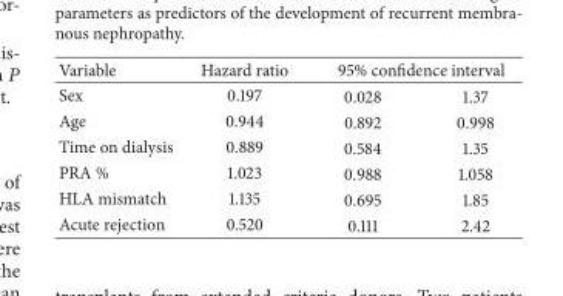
<table><thead><tr><td rowspan="2">Variable Sex</td><td rowspan="2">Hazard ratio 0.197</td><td colspan="2">95% confidence interval</td></tr><tr><td>0.028</td><td>1.37</td></tr></thead><tbody><tr><td>Age</td><td>0.944</td><td>0.892</td><td>0.998</td></tr><tr><td>Time on dialysis</td><td>0.889</td><td>0.584</td><td>1.35</td></tr><tr><td>PRA %</td><td>1.023</td><td>0.988</td><td>1.058</td></tr><tr><td>HLA mismatch</td><td>1.135</td><td>0.695</td><td>1.85</td></tr><tr><td>Acute rejection</td><td>0.520</td><td>0.111</td><td>2.42</td></tr></tbody></table>